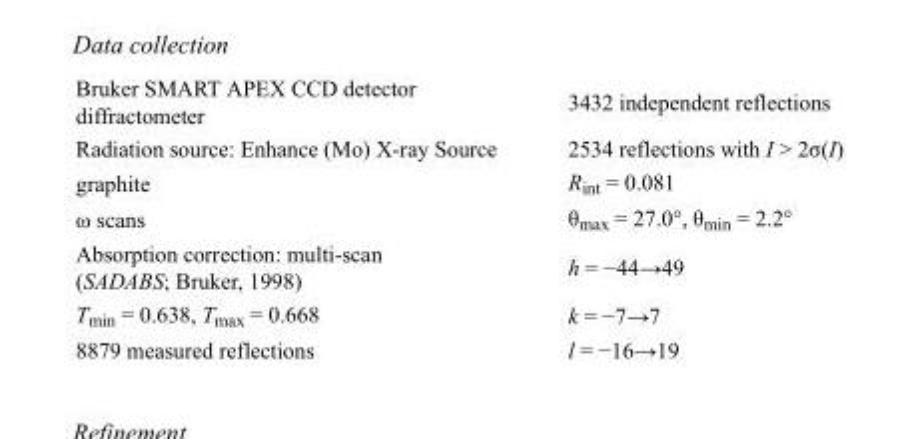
<table><tbody><tr><td>Bruker SMART APEX CCD detector diffractometer</td><td>3432 independent reflections</td></tr><tr><td>Radiation source: Enhance (Mo) X-ray Source</td><td>2534 reflections with I &gt; 2σ(I)</td></tr><tr><td>graphite</td><td>R<sub>int</sub> = 0.081</td></tr><tr><td>ω scans</td><td>θ<sub>max</sub> = 27.0°, θ<sub>min</sub> = 2.2°</td></tr><tr><td>Absorption correction: multi-scan (SADABS; Bruker, 1998)</td><td>h = −44→49</td></tr><tr><td>T<sub>min</sub> = 0.638, T<sub>max</sub> = 0.668</td><td>k = −7→7</td></tr><tr><td>8879 measured reflections</td><td>l = −16→19</td></tr></tbody></table>